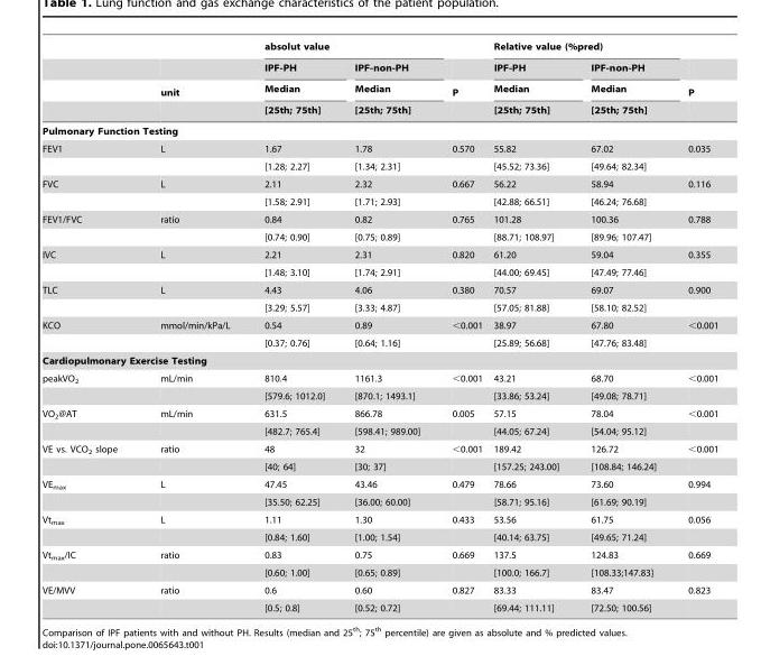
<table><thead><tr><td rowspan="4"></td><td rowspan="4">unit</td><td colspan="2">absolut value</td><td rowspan="4">P</td><td colspan="2">Relative value (%pred)</td><td rowspan="4">P</td></tr><tr><td rowspan="3">IPF-PH Median [25th; 75th]</td><td rowspan="3">IPF-non-PH Median [25th; 75th]</td><td rowspan="3">IPF-PH Median [25th; 75th]</td><td rowspan="3">IPF-non-PH Median [25th; 75th]</td></tr><tr></tr><tr></tr></thead><tbody><tr><td colspan="8">Pulmonary Function Testing</td></tr><tr><td rowspan="2">FEV1</td><td>L</td><td>1.67</td><td>1.78</td><td>0.570</td><td>55.82</td><td>67.02</td><td>0.035</td></tr><tr><td></td><td>[1.28; 2.27]</td><td>[1.34; 2.31]</td><td></td><td>[45.52; 73.36]</td><td>[49.64; 82.34]</td><td></td></tr><tr><td rowspan="2">FVC</td><td>L</td><td>2.11</td><td>2.32</td><td>0.667</td><td>56.22</td><td>58.94</td><td>0.116</td></tr><tr><td></td><td>[1.58; 2.91]</td><td>[1.71; 2.93]</td><td></td><td>[42.88; 66.51]</td><td>[46.24; 76.68]</td><td></td></tr><tr><td rowspan="2">FEV1/FVC</td><td>ratio</td><td>0.84</td><td>0.82</td><td>0.765</td><td>101.28</td><td>100.36</td><td>0.788</td></tr><tr><td></td><td>[0.74; 0.90]</td><td>[0.75; 0.89]</td><td></td><td>[88.71; 108.97]</td><td>[89.96; 107.47]</td><td></td></tr><tr><td rowspan="2">IVC</td><td>L</td><td>2.21</td><td>2.31</td><td>0.820</td><td>61.20</td><td>59.04</td><td>0.355</td></tr><tr><td></td><td>[1.48; 3.10]</td><td>[1.74; 2.91]</td><td></td><td>[44.00; 69.45]</td><td>[47.49; 77.46]</td><td></td></tr><tr><td rowspan="2">TLC</td><td>L</td><td>4.43</td><td>4.06</td><td>0.380</td><td>70.57</td><td>69.07</td><td>0.900</td></tr><tr><td></td><td>[3.29; 5.57]</td><td>[3.33; 4.87]</td><td></td><td>[57.05; 81.88]</td><td>[58.10; 82.52]</td><td></td></tr><tr><td rowspan="2">KCO</td><td>mmol/min/kPa/L</td><td>0.54</td><td>0.89</td><td>&lt;0.001</td><td>38.97</td><td>67.80</td><td>&lt;0.001</td></tr><tr><td></td><td>[0.37; 0.76]</td><td>[0.64; 1.16]</td><td></td><td>[25.89; 56.68]</td><td>[47.76; 83.48]</td><td></td></tr><tr><td colspan="8">Cardiopulmonary Exercise Testing</td></tr><tr><td rowspan="2">peakVO<sub>2</sub></td><td>mL/min</td><td>810.4</td><td>1161.3</td><td>&lt;0.001</td><td>43.21</td><td>68.70</td><td>&lt;0.001</td></tr><tr><td></td><td>[579.6; 1012.0]</td><td>[870.1; 1493.1]</td><td></td><td>[33.86; 53.24]</td><td>[49.08; 78.71]</td><td></td></tr><tr><td rowspan="2">VO<sub>2</sub>@AT</td><td>mL/min</td><td>631.5</td><td>866.78</td><td>0.005</td><td>57.15</td><td>78.04</td><td>&lt;0.001</td></tr><tr><td></td><td>[482.7; 765.4]</td><td>[598.41; 989.00]</td><td></td><td>[44.05; 67.24]</td><td>[54.04; 95.12]</td><td></td></tr><tr><td rowspan="2">VE vs. VCO<sub>2</sub> slope</td><td>ratio</td><td>48</td><td>32</td><td>&lt;0.001</td><td>189.42</td><td>126.72</td><td>&lt;0.001</td></tr><tr><td></td><td>[40; 64]</td><td>[30; 37]</td><td></td><td>[157.25; 243.00]</td><td>[108.84; 146.24]</td><td></td></tr><tr><td rowspan="2">VE<sub>max</sub></td><td>L</td><td>47.45</td><td>43.46</td><td>0.479</td><td>78.66</td><td>73.60</td><td>0.994</td></tr><tr><td></td><td>[35.50; 62.25]</td><td>[36.00; 60.00]</td><td></td><td>[58.71; 95.16]</td><td>[61.69; 90.19]</td><td></td></tr><tr><td rowspan="2">Vt<sub>max</sub></td><td>L</td><td>1.11</td><td>1.30</td><td>0.433</td><td>53.56</td><td>61.75</td><td>0.056</td></tr><tr><td></td><td>[0.84; 1.60]</td><td>[1.00; 1.54]</td><td></td><td>[40.14; 63.75]</td><td>[49.65; 71.24]</td><td></td></tr><tr><td rowspan="2">Vt<sub>max</sub>/IC</td><td>ratio</td><td>0.83</td><td>0.75</td><td>0.669</td><td>137.5</td><td>124.83</td><td>0.669</td></tr><tr><td></td><td>[0.60; 1.00]</td><td>[0.65; 0.89]</td><td></td><td>[100.0; 166.7]</td><td>[108.33;147.83]</td><td></td></tr><tr><td rowspan="2">VE/MVV</td><td>ratio</td><td>0.6</td><td>0.60</td><td>0.827</td><td>83.33</td><td>83.47</td><td>0.823</td></tr><tr><td></td><td>[0.5; 0.8]</td><td>[0.52; 0.72]</td><td></td><td>[69.44; 111.11]</td><td>[72.50; 100.56]</td><td></td></tr></tbody></table>